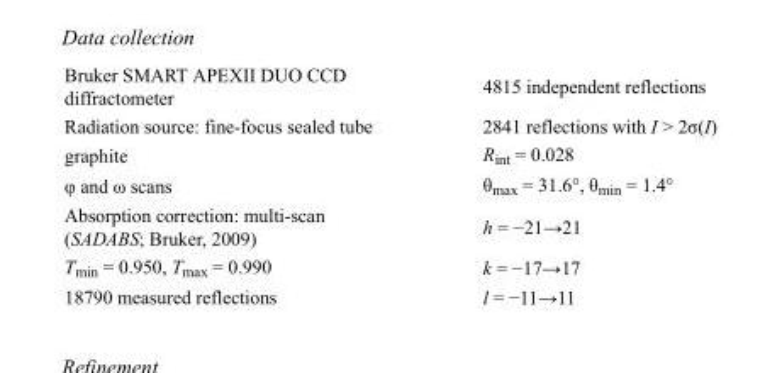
<table><tbody><tr><td>Bruker SMART APEXII DUO CCD diffractometer</td><td>4815 independent reflections</td></tr><tr><td>Radiation source: fine-focus sealed tube</td><td>2841 reflections with I &gt; 2σ(I)</td></tr><tr><td>graphite</td><td>R<sub>int</sub> = 0.028</td></tr><tr><td>φ and ω scans</td><td>θ<sub>max</sub> = 31.6°, θ<sub>min</sub> = 1.4°</td></tr><tr><td>Absorption correction: multi-scan (SADABS; Bruker, 2009)</td><td>h = −21→21</td></tr><tr><td>T<sub>min</sub> = 0.950, T<sub>max</sub> = 0.990</td><td>k = −17→17</td></tr><tr><td>18790 measured reflections</td><td>l = −11→11</td></tr></tbody></table>